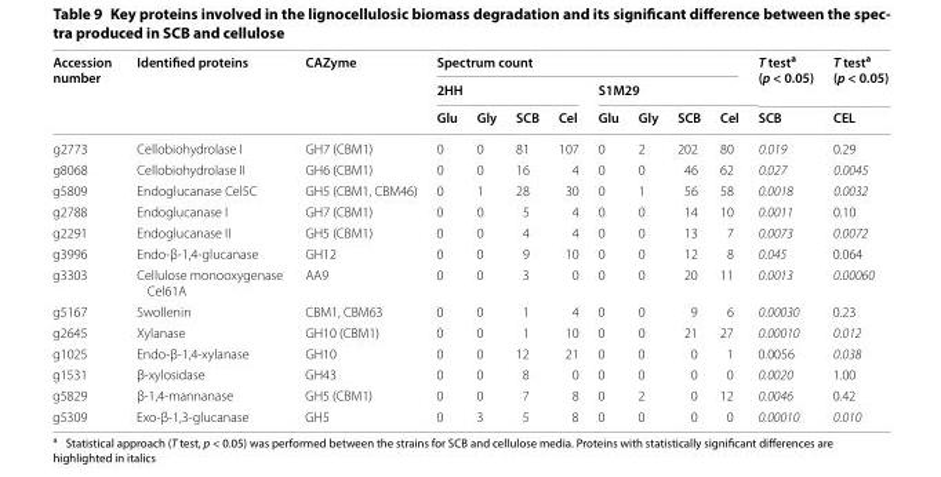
<table><thead><tr><td rowspan="3">Accession number</td><td rowspan="3">Identified proteins</td><td rowspan="3">CAZyme</td><td colspan="8">Spectrum count</td><td rowspan="3">T test<sup>a</sup> (p &lt; 0.05) SCB</td><td rowspan="3">T testa (p &lt; 0.05) CEL</td></tr><tr><td colspan="4">2HH</td><td colspan="4">S1M29</td></tr><tr><td>Glu</td><td>Gly</td><td>SCB</td><td>Cel</td><td>Glu</td><td>Gly</td><td>SCB</td><td>Cel</td></tr></thead><tbody><tr><td>g2773</td><td>Cellobiohydrolase I</td><td>GH7 (CBM1)</td><td>0</td><td>0</td><td>81</td><td>107</td><td>0</td><td>2</td><td>202</td><td>80</td><td>0.019</td><td>0.29</td></tr><tr><td>g8068</td><td>Cellobiohydrolase II</td><td>GH6 (CBM1)</td><td>0</td><td>0</td><td>16</td><td>4</td><td>0</td><td>0</td><td>46</td><td>62</td><td>0.027</td><td>0.0045</td></tr><tr><td>g5809</td><td>Endoglucanase Cel5C</td><td>GH5 (CBM1, CBM46)</td><td>0</td><td>1</td><td>28</td><td>30</td><td>0</td><td>1</td><td>56</td><td>58</td><td>0.0018</td><td>0.0032</td></tr><tr><td>g2788</td><td>Endoglucanase I</td><td>GH7 (CBM1)</td><td>0</td><td>0</td><td>5</td><td>4</td><td>0</td><td>0</td><td>14</td><td>10</td><td>0.0011</td><td>0.10</td></tr><tr><td>g2291</td><td>Endoglucanase II</td><td>GH5 (CBM1)</td><td>0</td><td>0</td><td>4</td><td>4</td><td>0</td><td>0</td><td>13</td><td>7</td><td>0.0073</td><td>0.0072</td></tr><tr><td>g3996</td><td>Endo-β-1,4-glucanase</td><td>GH12</td><td>0</td><td>0</td><td>9</td><td>10</td><td>0</td><td>0</td><td>12</td><td>8</td><td>0.045</td><td>0.064</td></tr><tr><td>g3303</td><td>Cellulose monooxygenase Cel61A</td><td>AA9</td><td>0</td><td>0</td><td>3</td><td>0</td><td>0</td><td>0</td><td>20</td><td>11</td><td>0.0013</td><td>0.00060</td></tr><tr><td>g5167</td><td>Swollenin</td><td>CBM1, CBM63</td><td>0</td><td>0</td><td>1</td><td>4</td><td>0</td><td>0</td><td>9</td><td>6</td><td>0.00030</td><td>0.23</td></tr><tr><td>g2645</td><td>Xylanase</td><td>GH10 (CBM1)</td><td>0</td><td>0</td><td>1</td><td>10</td><td>0</td><td>0</td><td>21</td><td>27</td><td>0.00010</td><td>0.012</td></tr><tr><td>g1025</td><td>Endo-β-1,4-xylanase</td><td>GH10</td><td>0</td><td>0</td><td>12</td><td>21</td><td>0</td><td>0</td><td>0</td><td>1</td><td>0.0056</td><td>0.038</td></tr><tr><td>g1531</td><td>β-xylosidase</td><td>GH43</td><td>0</td><td>0</td><td>8</td><td>0</td><td>0</td><td>0</td><td>0</td><td>0</td><td>0.0020</td><td>1.00</td></tr><tr><td>g5829</td><td>β-1,4-mannanase</td><td>GH5 (CBM1)</td><td>0</td><td>0</td><td>7</td><td>8</td><td>0</td><td>2</td><td>0</td><td>12</td><td>0.0046</td><td>0.42</td></tr><tr><td>g5309</td><td>Exo-β-1,3-glucanase</td><td>GH5</td><td>0</td><td>3</td><td>5</td><td>8</td><td>0</td><td>0</td><td>0</td><td>0</td><td>0.00010</td><td>0.010</td></tr></tbody></table>